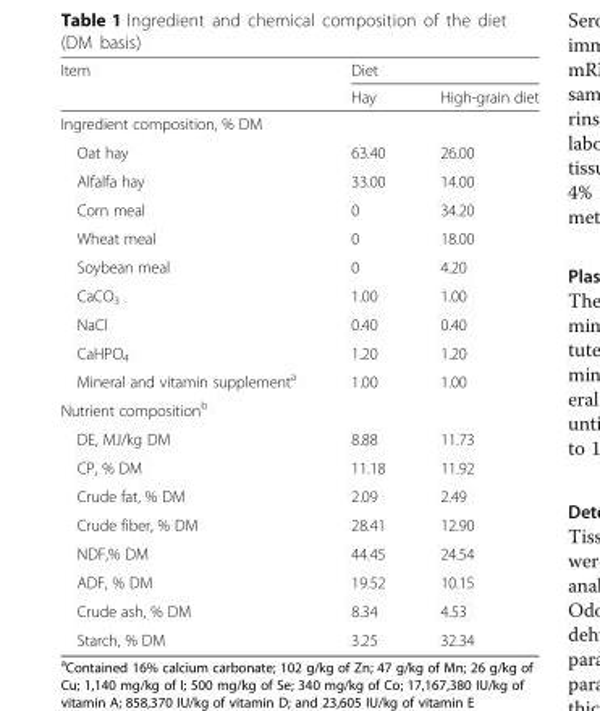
<table><thead><tr><td rowspan="2">Item</td><td colspan="2">Diet</td></tr><tr><td>Hay</td><td>High-grain diet</td></tr></thead><tbody><tr><td colspan="3">Ingredient composition, % DM</td></tr><tr><td>Oat hay</td><td>63.40</td><td>26.00</td></tr><tr><td>Alfalfa hay</td><td>33.00</td><td>14.00</td></tr><tr><td>Corn meal</td><td>0</td><td>34.20</td></tr><tr><td>Wheat meal</td><td>0</td><td>18.00</td></tr><tr><td>Soybean meal</td><td>0</td><td>4.20</td></tr><tr><td>CaCO<sub>3</sub></td><td>1.00</td><td>1.00</td></tr><tr><td>NaCl</td><td>0.40</td><td>0.40</td></tr><tr><td>CaHPO<sub>4</sub></td><td>1.20</td><td>1.20</td></tr><tr><td>Mineral and vitamin supplement<sup>a</sup></td><td>1.00</td><td>1.00</td></tr><tr><td colspan="3">Nutrient composition<sup>b</sup></td></tr><tr><td>DE, MJ/kg DM</td><td>8.88</td><td>11.73</td></tr><tr><td>CP, % DM</td><td>11.18</td><td>11.92</td></tr><tr><td>Crude fat, % DM</td><td>2.09</td><td>2.49</td></tr><tr><td>Crude fiber, % DM</td><td>28.41</td><td>12.90</td></tr><tr><td>NDF,% DM</td><td>44.45</td><td>24.54</td></tr><tr><td>ADF, % DM</td><td>19.52</td><td>10.15</td></tr><tr><td>Crude ash, % DM</td><td>8.34</td><td>4.53</td></tr><tr><td>Starch, % DM</td><td>3.25</td><td>32.34</td></tr></tbody></table>